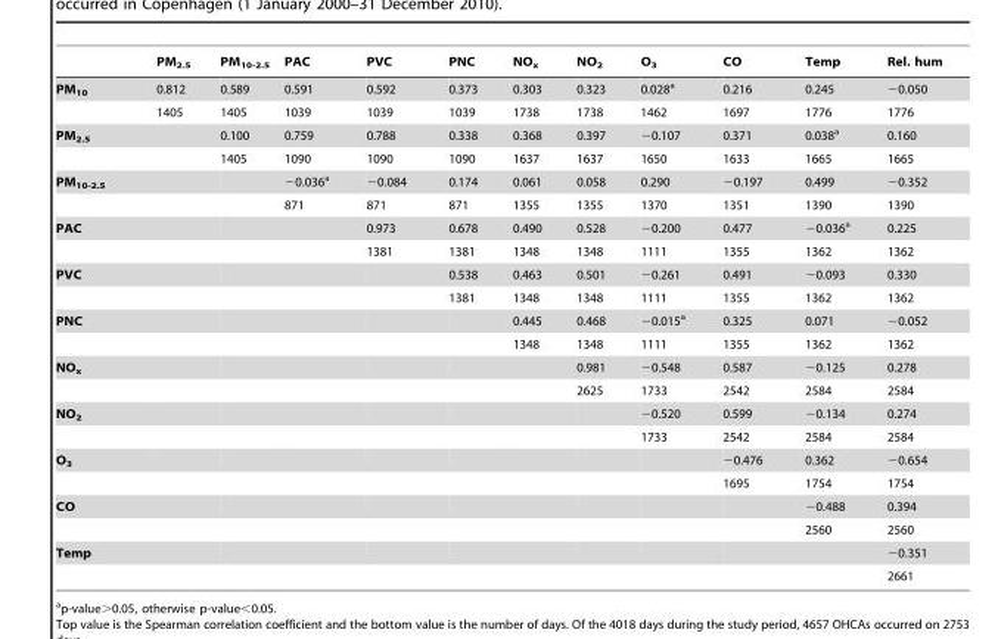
<table><thead><tr><td></td><td>PM<sub>2.5</sub></td><td>PM<sub>10-2.5</sub></td><td>PAC</td><td>PVC</td><td>PNC</td><td>NO<sub>x</sub></td><td>NO<sub>2</sub></td><td>O<sub>3</sub></td><td>CO</td><td>Temp</td><td>Rel. hum</td></tr></thead><tbody><tr><td rowspan="2">PM<sub>10</sub></td><td>0.812</td><td>0.589</td><td>0.591</td><td>0.592</td><td>0.373</td><td>0.303</td><td>0.323</td><td>0.028<sup>a</sup></td><td>0.216</td><td>0.245</td><td>−0.050</td></tr><tr><td>1405</td><td>1405</td><td>1039</td><td>1039</td><td>1039</td><td>1738</td><td>1738</td><td>1462</td><td>1697</td><td>1776</td><td>1776</td></tr><tr><td rowspan="2">PM<sub>2.5</sub></td><td></td><td>0.100</td><td>0.759</td><td>0.788</td><td>0.338</td><td>0.368</td><td>0.397</td><td>−0.107</td><td>0.371</td><td>0.038<sup>a</sup></td><td>0.160</td></tr><tr><td></td><td>1405</td><td>1090</td><td>1090</td><td>1090</td><td>1637</td><td>1637</td><td>1650</td><td>1633</td><td>1665</td><td>1665</td></tr><tr><td rowspan="2">PM<sub>10-2.5</sub></td><td></td><td></td><td>−0.036<sup>a</sup></td><td>−0.084</td><td>0.174</td><td>0.061</td><td>0.058</td><td>0.290</td><td>−0.197</td><td>0.499</td><td>−0.352</td></tr><tr><td></td><td></td><td>871</td><td>871</td><td>871</td><td>1355</td><td>1355</td><td>1370</td><td>1351</td><td>1390</td><td>1390</td></tr><tr><td rowspan="2">PAC</td><td></td><td></td><td></td><td>0.973</td><td>0.678</td><td>0.490</td><td>0.528</td><td>−0.200</td><td>0.477</td><td>−0.036<sup>a</sup></td><td>0.225</td></tr><tr><td></td><td></td><td></td><td>1381</td><td>1381</td><td>1348</td><td>1348</td><td>1111</td><td>1355</td><td>1362</td><td>1362</td></tr><tr><td rowspan="2">PVC</td><td></td><td></td><td></td><td></td><td>0.538</td><td>0.463</td><td>0.501</td><td>−0.261</td><td>0.491</td><td>−0.093</td><td>0.330</td></tr><tr><td></td><td></td><td></td><td></td><td>1381</td><td>1348</td><td>1348</td><td>1111</td><td>1355</td><td>1362</td><td>1362</td></tr><tr><td rowspan="2">PNC</td><td></td><td></td><td></td><td></td><td></td><td>0.445</td><td>0.468</td><td>−0.015<sup>a</sup></td><td>0.325</td><td>0.071</td><td>−0.052</td></tr><tr><td></td><td></td><td></td><td></td><td></td><td>1348</td><td>1348</td><td>1111</td><td>1355</td><td>1362</td><td>1362</td></tr><tr><td rowspan="2">NO<sub>x</sub></td><td></td><td></td><td></td><td></td><td></td><td></td><td>0.981</td><td>−0.548</td><td>0.587</td><td>−0.125</td><td>0.278</td></tr><tr><td></td><td></td><td></td><td></td><td></td><td></td><td>2625</td><td>1733</td><td>2542</td><td>2584</td><td>2584</td></tr><tr><td rowspan="2">NO<sub>2</sub></td><td></td><td></td><td></td><td></td><td></td><td></td><td></td><td>−0.520</td><td>0.599</td><td>−0.134</td><td>0.274</td></tr><tr><td></td><td></td><td></td><td></td><td></td><td></td><td></td><td>1733</td><td>2542</td><td>2584</td><td>2584</td></tr><tr><td rowspan="2">O<sub>3</sub></td><td></td><td></td><td></td><td></td><td></td><td></td><td></td><td></td><td>−0.476</td><td>0.362</td><td>−0.654</td></tr><tr><td></td><td></td><td></td><td></td><td></td><td></td><td></td><td></td><td>1695</td><td>1754</td><td>1754</td></tr><tr><td rowspan="2">CO</td><td></td><td></td><td></td><td></td><td></td><td></td><td></td><td></td><td></td><td>−0.488</td><td>0.394</td></tr><tr><td></td><td></td><td></td><td></td><td></td><td></td><td></td><td></td><td></td><td>2560</td><td>2560</td></tr><tr><td rowspan="2">Temp</td><td></td><td></td><td></td><td></td><td></td><td></td><td></td><td></td><td></td><td></td><td>−0.351</td></tr><tr><td></td><td></td><td></td><td></td><td></td><td></td><td></td><td></td><td></td><td></td><td>2661</td></tr></tbody></table>